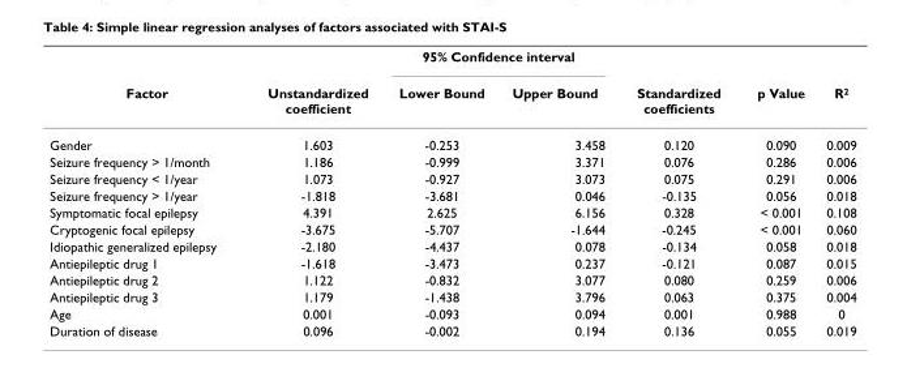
<table><thead><tr><td rowspan="2">Factor</td><td rowspan="2">Unstandardized coefficient</td><td colspan="2">95% Confidence interval</td><td rowspan="2">Standardized coefficients</td><td rowspan="2">p Value</td><td rowspan="2">R<sup>2</sup></td></tr><tr><td>Lower Bound</td><td>Upper Bound</td></tr></thead><tbody><tr><td>Gender</td><td>1.603</td><td>-0.253</td><td>3.458</td><td>0.120</td><td>0.090</td><td>0.009</td></tr><tr><td>Seizure frequency &gt; 1/month</td><td>1.186</td><td>-0.999</td><td>3.371</td><td>0.076</td><td>0.286</td><td>0.006</td></tr><tr><td>Seizure frequency &lt; 1/year</td><td>1.073</td><td>-0.927</td><td>3.073</td><td>0.075</td><td>0.291</td><td>0.006</td></tr><tr><td>Seizure frequency &gt; 1/year</td><td>-1.818</td><td>-3.681</td><td>0.046</td><td>-0.135</td><td>0.056</td><td>0.018</td></tr><tr><td>Symptomatic focal epilepsy</td><td>4.391</td><td>2.625</td><td>6.156</td><td>0.328</td><td>&lt; 0.001</td><td>0.108</td></tr><tr><td>Cryptogenic focal epilepsy</td><td>-3.675</td><td>-5.707</td><td>-1.644</td><td>-0.245</td><td>&lt; 0.001</td><td>0.060</td></tr><tr><td>Idiopathic generalized epilepsy</td><td>-2.180</td><td>-4.437</td><td>0.078</td><td>-0.134</td><td>0.058</td><td>0.018</td></tr><tr><td>Antiepileptic drug 1</td><td>-1.618</td><td>-3.473</td><td>0.237</td><td>-0.121</td><td>0.087</td><td>0.015</td></tr><tr><td>Antiepileptic drug 2</td><td>1.122</td><td>-0.832</td><td>3.077</td><td>0.080</td><td>0.259</td><td>0.006</td></tr><tr><td>Antiepileptic drug 3</td><td>1.179</td><td>-1.438</td><td>3.796</td><td>0.063</td><td>0.375</td><td>0.004</td></tr><tr><td>Age</td><td>0.001</td><td>-0.093</td><td>0.094</td><td>0.001</td><td>0.988</td><td>0</td></tr><tr><td>Duration of disease</td><td>0.096</td><td>-0.002</td><td>0.194</td><td>0.136</td><td>0.055</td><td>0.019</td></tr></tbody></table>